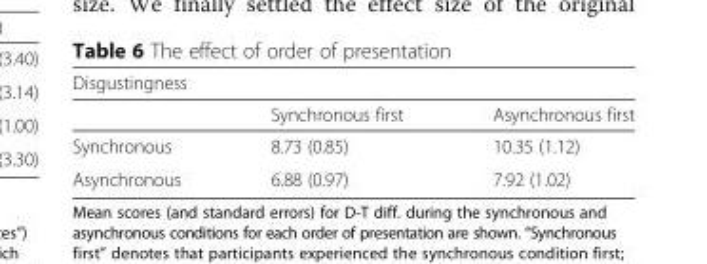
<table><thead><tr><td colspan="3">Disgustingness</td></tr><tr><td></td><td>Synchronous first</td><td>Asynchronous first</td></tr></thead><tbody><tr><td>Synchronous</td><td>8.73 (0.85)</td><td>10.35 (1.12)</td></tr><tr><td>Asynchronous</td><td>6.88 (0.97)</td><td>7.92 (1.02)</td></tr></tbody></table>